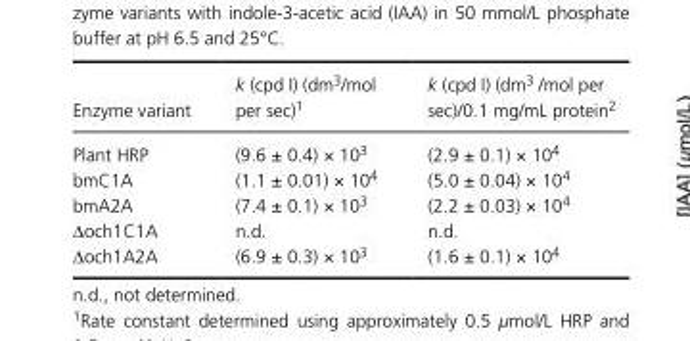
<table><thead><tr><td>Enzyme variant</td><td>k (cpd I) (dm3/mol per sec)1</td><td>k (cpd I) (dm3 /mol per sec)/0.1 mg/mL protein2</td></tr></thead><tbody><tr><td>Plant HRP</td><td>(9.6 ± 0.4) × 10<sup>3</sup></td><td>(2.9 ± 0.1) × 10<sup>4</sup></td></tr><tr><td>bmC1A</td><td>(1.1 ± 0.01) × 10<sup>4</sup></td><td>(5.0 ± 0.04) × 10<sup>4</sup></td></tr><tr><td>bmA2A</td><td>(7.4 ± 0.1) × 10<sup>3</sup></td><td>(2.2 ± 0.03) × 10<sup>4</sup></td></tr><tr><td>Δoch1C1A</td><td>n.d.</td><td>n.d.</td></tr><tr><td>Δoch1A2A</td><td>(6.9 ± 0.3) × 10<sup>3</sup></td><td>(1.6 ± 0.1) × 10<sup>4</sup></td></tr></tbody></table>